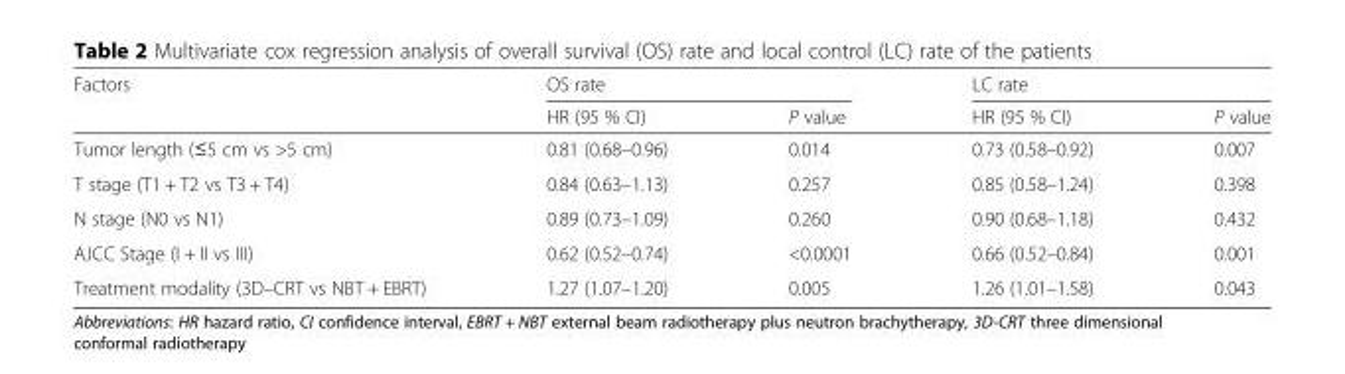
<table><thead><tr><td rowspan="2">Factors</td><td colspan="2">OS rate</td><td colspan="2">LC rate</td></tr><tr><td>HR (95 % CI)</td><td>P value</td><td>HR (95 % CI)</td><td>P value</td></tr></thead><tbody><tr><td>Tumor length (≤5 cm vs &gt;5 cm)</td><td>0.81 (0.68–0.96)</td><td>0.014</td><td>0.73 (0.58–0.92)</td><td>0.007</td></tr><tr><td>T stage (T1 + T2 vs T3 + T4)</td><td>0.84 (0.63–1.13)</td><td>0.257</td><td>0.85 (0.58–1.24)</td><td>0.398</td></tr><tr><td>N stage (N0 vs N1)</td><td>0.89 (0.73–1.09)</td><td>0.260</td><td>0.90 (0.68–1.18)</td><td>0.432</td></tr><tr><td>AJCC Stage (I + II vs III)</td><td>0.62 (0.52–0.74)</td><td>&lt;0.0001</td><td>0.66 (0.52–0.84)</td><td>0.001</td></tr><tr><td>Treatment modality (3D–CRT vs NBT + EBRT)</td><td>1.27 (1.07–1.20)</td><td>0.005</td><td>1.26 (1.01–1.58)</td><td>0.043</td></tr></tbody></table>